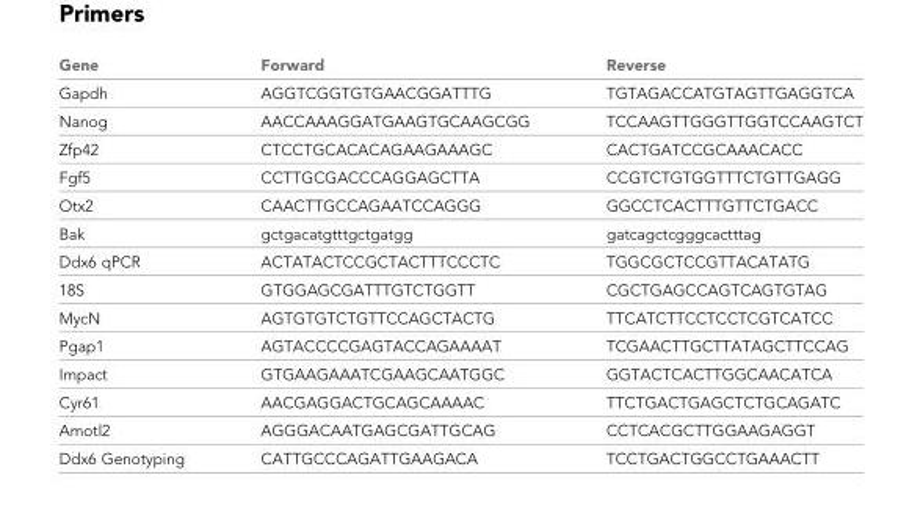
<table><thead><tr><td>Gene</td><td>Forward</td><td>Reverse</td></tr></thead><tbody><tr><td>Gapdh</td><td>AGGTCGGTGTGAACGGATTTG</td><td>TGTAGACCATGTAGTTGAGGTCA</td></tr><tr><td>Nanog</td><td>AACCAAAGGATGAAGTGCAAGCGG</td><td>TCCAAGTTGGGTTGGTCCAAGTCT</td></tr><tr><td>Zfp42</td><td>CTCCTGCACACAGAAGAAAGC</td><td>CACTGATCCGCAAACACC</td></tr><tr><td>Fgf5</td><td>CCTTGCGACCCAGGAGCTTA</td><td>CCGTCTGTGGTTTCTGTTGAGG</td></tr><tr><td>Otx2</td><td>CAACTTGCCAGAATCCAGGG</td><td>GGCCTCACTTTGTTCTGACC</td></tr><tr><td>Bak</td><td>gctgacatgtttgctgatgg</td><td>gatcagctcgggcactttag</td></tr><tr><td>Ddx6 qPCR</td><td>ACTATACTCCGCTACTTTCCCTC</td><td>TGGCGCTCCGTTACATATG</td></tr><tr><td>18S</td><td>GTGGAGCGATTTGTCTGGTT</td><td>CGCTGAGCCAGTCAGTGTAG</td></tr><tr><td>MycN</td><td>AGTGTGTCTGTTCCAGCTACTG</td><td>TTCATCTTCCTCCTCGTCATCC</td></tr><tr><td>Pgap1</td><td>AGTACCCCGAGTACCAGAAAAT</td><td>TCGAACTTGCTTATAGCTTCCAG</td></tr><tr><td>Impact</td><td>GTGAAGAAATCGAAGCAATGGC</td><td>GGTACTCACTTGGCAACATCA</td></tr><tr><td>Cyr61</td><td>AACGAGGACTGCAGCAAAAC</td><td>TTCTGACTGAGCTCTGCAGATC</td></tr><tr><td>Amotl2</td><td>AGGGACAATGAGCGATTGCAG</td><td>CCTCACGCTTGGAAGAGGT</td></tr><tr><td>Ddx6 Genotyping</td><td>CATTGCCCAGATTGAAGACA</td><td>TCCTGACTGGCCTGAAACTT</td></tr></tbody></table>